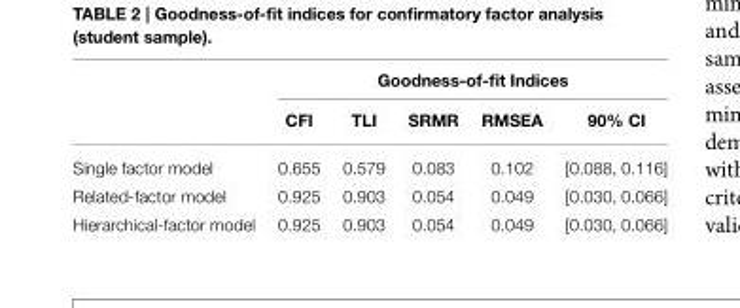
<table><thead><tr><td rowspan="2"></td><td colspan="5">Goodness-of-fit Indices</td></tr><tr><td>CFI</td><td>TLI</td><td>SRMR</td><td>RMSEA</td><td>90% CI</td></tr></thead><tbody><tr><td>Single factor model</td><td>0.655</td><td>0.579</td><td>0.083</td><td>0.102</td><td>[0.088, 0.116]</td></tr><tr><td>Related-factor model</td><td>0.925</td><td>0.903</td><td>0.054</td><td>0.049</td><td>[0.030, 0.066]</td></tr><tr><td>Hierarchical-factor model</td><td>0.925</td><td>0.903</td><td>0.054</td><td>0.049</td><td>[0.030, 0.066]</td></tr></tbody></table>